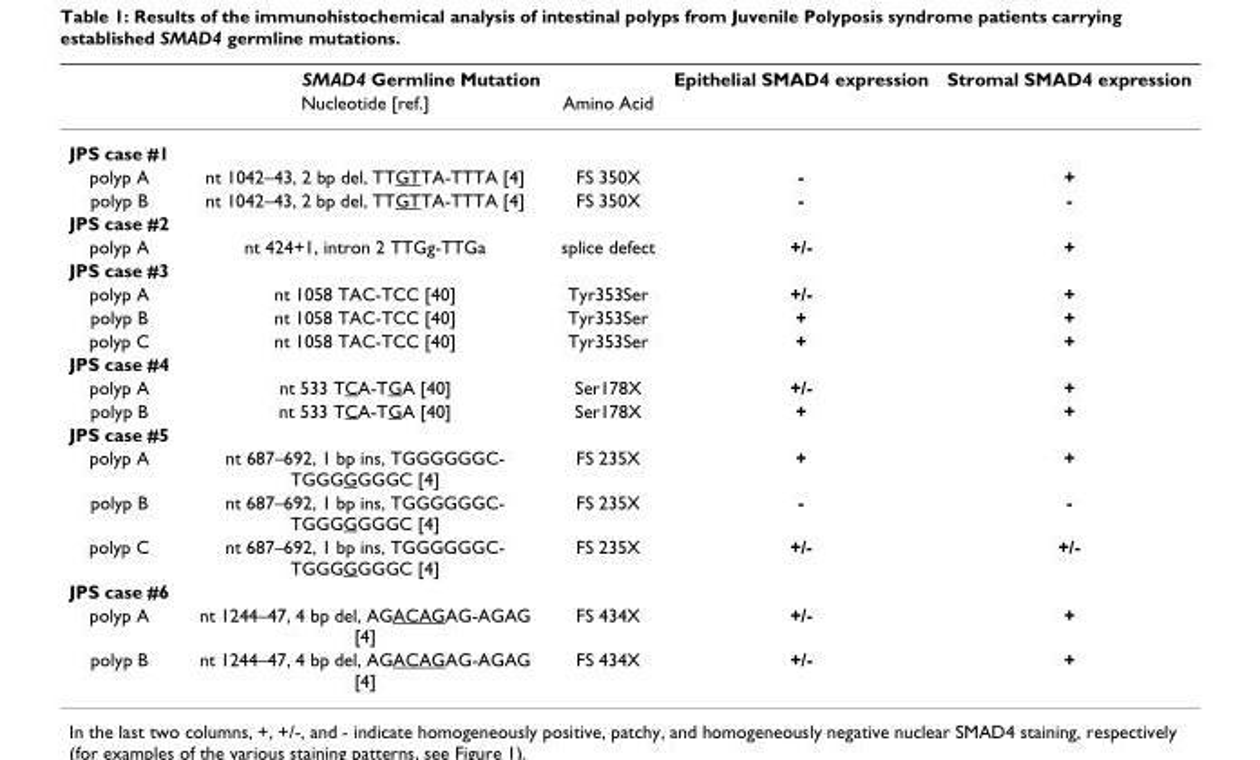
<table><thead><tr><td rowspan="2"></td><td colspan="2">SMAD4 Germline Mutation</td><td rowspan="2">Epithelial SMAD4 expression</td><td rowspan="2">Stromal SMAD4 expression</td></tr><tr><td>Nucleotide [ref.]</td><td>Amino Acid</td></tr></thead><tbody><tr><td colspan="5">JPS case #1</td></tr><tr><td>polyp A</td><td>nt 1042–43, 2 bp del, TTGTTA-TTTA [4]</td><td>FS 350X</td><td>-</td><td>+</td></tr><tr><td>polyp B</td><td>nt 1042–43, 2 bp del, TTGTTA-TTTA [4]</td><td>FS 350X</td><td>-</td><td>-</td></tr><tr><td colspan="5">JPS case #2</td></tr><tr><td>polyp A</td><td>nt 424+1, intron 2 TTGg-TTGa</td><td>splice defect</td><td>+/-</td><td>+</td></tr><tr><td colspan="5">JPS case #3</td></tr><tr><td>polyp A</td><td>nt 1058 TAC-TCC [40]</td><td>Tyr353Ser</td><td>+/-</td><td>+</td></tr><tr><td>polyp B</td><td>nt 1058 TAC-TCC [40]</td><td>Tyr353Ser</td><td>+</td><td>+</td></tr><tr><td>polyp C</td><td>nt 1058 TAC-TCC [40]</td><td>Tyr353Ser</td><td>+</td><td>+</td></tr><tr><td colspan="5">JPS case #4</td></tr><tr><td>polyp A</td><td>nt 533 TCA-TGA [40]</td><td>Ser178X</td><td>+/-</td><td>+</td></tr><tr><td>polyp B</td><td>nt 533 TCA-TGA [40]</td><td>Ser178X</td><td>+</td><td>+</td></tr><tr><td colspan="5">JPS case #5</td></tr><tr><td>polyp A</td><td>nt 687–692, 1 bp ins, TGGGGGGC- TGGGGGGGC [4]</td><td>FS 235X</td><td>+</td><td>+</td></tr><tr><td>polyp B</td><td>nt 687–692, 1 bp ins, TGGGGGGC- TGGGGGGGC [4]</td><td>FS 235X</td><td>-</td><td>-</td></tr><tr><td>polyp C</td><td>nt 687–692, 1 bp ins, TGGGGGGC- TGGGGGGGC [4]</td><td>FS 235X</td><td>+/-</td><td>+/-</td></tr><tr><td colspan="5">JPS case #6</td></tr><tr><td>polyp A</td><td>nt 1244–47, 4 bp del, AGACAGAG-AGAG [4]</td><td>FS 434X</td><td>+/-</td><td>+</td></tr><tr><td>polyp B</td><td>nt 1244–47, 4 bp del, AGACAGAG-AGAG [4]</td><td>FS 434X</td><td>+/-</td><td>+</td></tr></tbody></table>